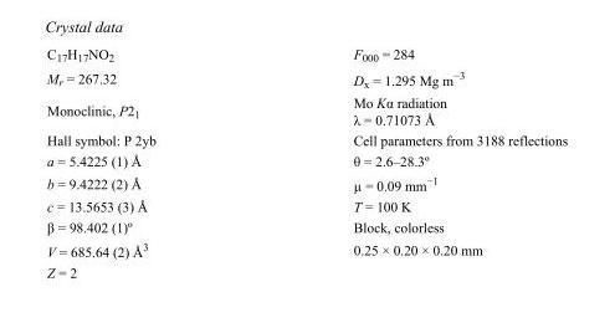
<table><tbody><tr><td>C<sub>17</sub>H<sub>17</sub>NO<sub>2</sub></td><td>F000 = 284</td></tr><tr><td>M<sub>r</sub> = 267.32</td><td>D<sub>x</sub> = 1.295 Mg m<sup>−3</sup></td></tr><tr><td>Monoclinic, P2<sub>1</sub></td><td>Mo Kα radiation λ = 0.71073 Å</td></tr><tr><td>Hall symbol: P 2yb</td><td>Cell parameters from 3188 reflections</td></tr><tr><td>a = 5.4225 (1) Å</td><td>θ = 2.6–28.3º</td></tr><tr><td>b = 9.4222 (2) Å</td><td>µ = 0.09 mm<sup>−1</sup></td></tr><tr><td>c = 13.5653 (3) Å</td><td>T = 100 K</td></tr><tr><td>β = 98.402 (1)º</td><td>Block, colorless</td></tr><tr><td>V = 685.64 (2) Å<sup>3</sup></td><td>0.25 × 0.20 × 0.20 mm</td></tr><tr><td>Z = 2</td><td></td></tr></tbody></table>